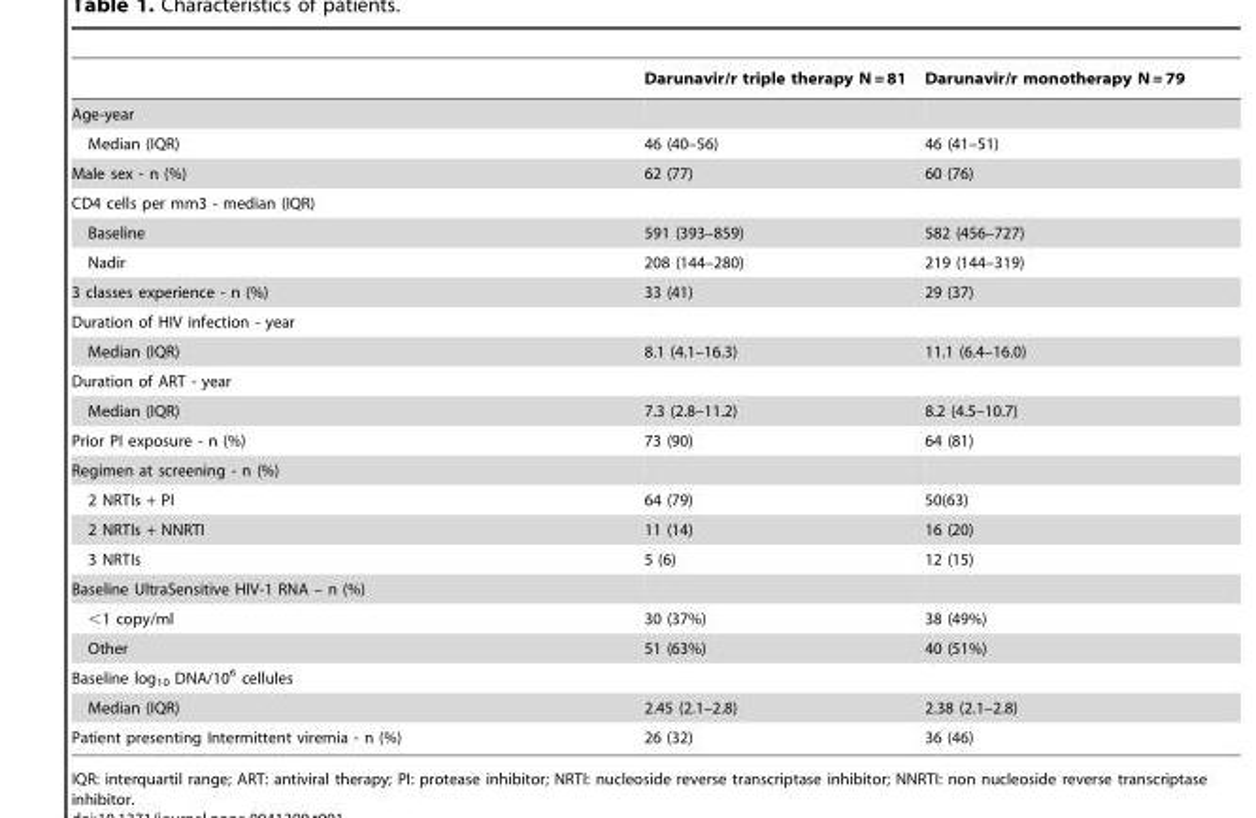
<table><thead><tr><td></td><td>Darunavir/r triple therapy N = 81</td><td>Darunavir/r monotherapy N = 79</td></tr></thead><tbody><tr><td colspan="3">Age-year</td></tr><tr><td>Median (IQR)</td><td>46 (40–56)</td><td>46 (41–51)</td></tr><tr><td>Male sex - n (%)</td><td>62 (77)</td><td>60 (76)</td></tr><tr><td colspan="3">CD4 cells per mm3 - median (IQR)</td></tr><tr><td>Baseline</td><td>591 (393–859)</td><td>582 (456–727)</td></tr><tr><td>Nadir</td><td>208 (144–280)</td><td>219 (144–319)</td></tr><tr><td>3 classes experience - n (%)</td><td>33 (41)</td><td>29 (37)</td></tr><tr><td colspan="3">Duration of HIV infection - year</td></tr><tr><td>Median (IQR)</td><td>8.1 (4.1–16.3)</td><td>11.1 (6.4–16.0)</td></tr><tr><td colspan="3">Duration of ART - year</td></tr><tr><td>Median (IQR)</td><td>7.3 (2.8–11.2)</td><td>8.2 (4.5–10.7)</td></tr><tr><td>Prior PI exposure - n (%)</td><td>73 (90)</td><td>64 (81)</td></tr><tr><td colspan="3">Regimen at screening - n (%)</td></tr><tr><td>2 NRTIs + PI</td><td>64 (79)</td><td>50(63)</td></tr><tr><td>2 NRTIs + NNRTI</td><td>11 (14)</td><td>16 (20)</td></tr><tr><td>3 NRTIs</td><td>5 (6)</td><td>12 (15)</td></tr><tr><td colspan="3">Baseline UltraSensitive HIV-1 RNA – n (%)</td></tr><tr><td>&lt;1 copy/ml</td><td>30 (37%)</td><td>38 (49%)</td></tr><tr><td>Other</td><td>51 (63%)</td><td>40 (51%)</td></tr><tr><td colspan="3">Baseline log<sub>10</sub> DNA/10<sup>6</sup> cellules</td></tr><tr><td>Median (IQR)</td><td>2.45 (2.1–2.8)</td><td>2.38 (2.1–2.8)</td></tr><tr><td>Patient presenting Intermittent viremia - n (%)</td><td>26 (32)</td><td>36 (46)</td></tr></tbody></table>